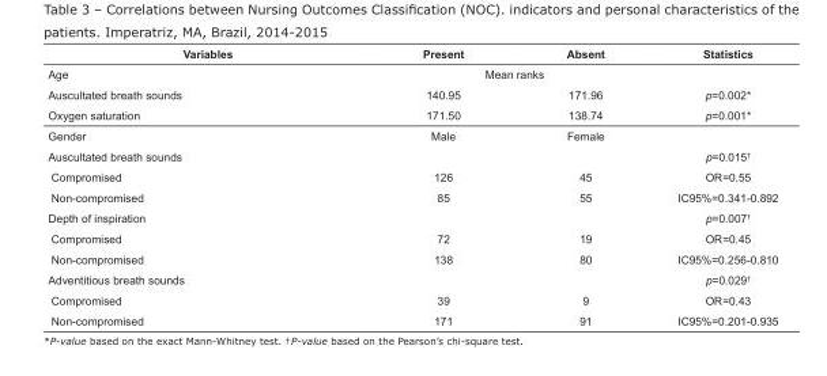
<table><tbody><tr><td>Variables</td><td>Present</td><td>Absent</td><td>Statistics</td></tr><tr><td>Age</td><td colspan="2">Mean ranks</td><td></td></tr><tr><td>Auscultated breath sounds</td><td>140.95</td><td>171.96</td><td>p=0.002*</td></tr><tr><td>Oxygen saturation</td><td>171.50</td><td>138.74</td><td>p=0.001*</td></tr><tr><td>Gender</td><td>Male</td><td>Female</td><td></td></tr><tr><td>Auscultated breath sounds</td><td></td><td></td><td>p=0.015<sup>†</sup></td></tr><tr><td>Compromised</td><td>126</td><td>45</td><td>OR=0.55</td></tr><tr><td>Non-compromised</td><td>85</td><td>55</td><td>IC95%=0.341-0.892</td></tr><tr><td>Depth of inspiration</td><td></td><td></td><td>p=0.007<sup>†</sup></td></tr><tr><td>Compromised</td><td>72</td><td>19</td><td>OR=0.45</td></tr><tr><td>Non-compromised</td><td>138</td><td>80</td><td>IC95%=0.256-0.810</td></tr><tr><td>Adventitious breath sounds</td><td></td><td></td><td>p=0.029<sup>†</sup></td></tr><tr><td>Compromised</td><td>39</td><td>9</td><td>OR=0.43</td></tr><tr><td>Non-compromised</td><td>171</td><td>91</td><td>IC95%=0.201-0.935</td></tr></tbody></table>